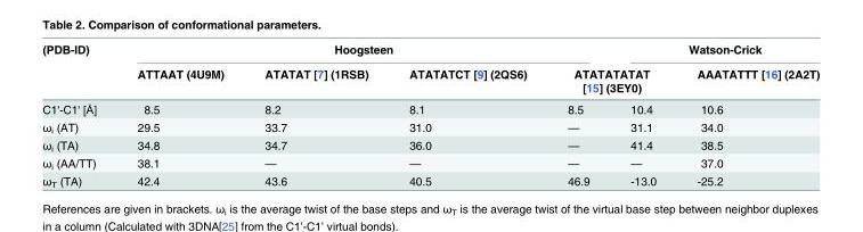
<table><thead><tr><td rowspan="3">(PDB-ID) C1&#x27;-C1&#x27; [Å]</td><td colspan="4">Hoogsteen</td><td colspan="2">Watson-Crick</td></tr><tr><td rowspan="2">ATTAAT (4U9M) 8.5</td><td rowspan="2">ATATAT [7] (1RSB) 8.2</td><td rowspan="2">ATATATCT [9] (2QS6) 8.1</td><td colspan="2">ATATATATAT [15] (3EY0)</td><td rowspan="2">AAATATTT [16] (2A2T) 10.6</td></tr><tr><td>8.5</td><td>10.4</td></tr></thead><tbody><tr><td>ω<sub>i</sub> (AT)</td><td>29.5</td><td>33.7</td><td>31.0</td><td>—</td><td>31.1</td><td>34.0</td></tr><tr><td>ω<sub>i</sub> (TA)</td><td>34.8</td><td>34.7</td><td>36.0</td><td>—</td><td>41.4</td><td>38.5</td></tr><tr><td>ω<sub>i</sub> (AA/TT)</td><td>38.1</td><td>—</td><td>—</td><td>—</td><td>—</td><td>37.0</td></tr><tr><td>ω<sub>T</sub> (TA)</td><td>42.4</td><td>43.6</td><td>40.5</td><td>46.9</td><td>-13.0</td><td>-25.2</td></tr></tbody></table>